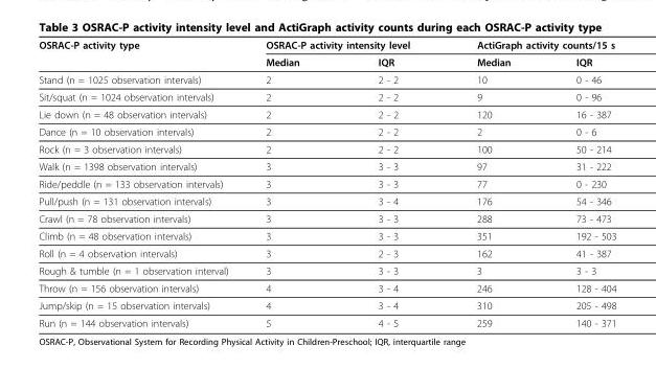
<table><thead><tr><td rowspan="2">OSRAC-P activity type</td><td colspan="2">OSRAC-P activity intensity level</td><td colspan="2">ActiGraph activity counts/15 s</td></tr><tr><td>Median</td><td>IQR</td><td>Median</td><td>IQR</td></tr></thead><tbody><tr><td>Stand (n = 1025 observation intervals)</td><td>2</td><td>2 - 2</td><td>10</td><td>0 - 46</td></tr><tr><td>Sit/squat (n = 1024 observation intervals)</td><td>2</td><td>2 - 2</td><td>9</td><td>0 - 96</td></tr><tr><td>Lie down (n = 48 observation intervals)</td><td>2</td><td>2 - 2</td><td>120</td><td>16 - 387</td></tr><tr><td>Dance (n = 10 observation intervals)</td><td>2</td><td>2 - 2</td><td>2</td><td>0 - 6</td></tr><tr><td>Rock (n = 3 observation intervals)</td><td>2</td><td>2 - 2</td><td>100</td><td>50 - 214</td></tr><tr><td>Walk (n = 1398 observation intervals)</td><td>3</td><td>3 - 3</td><td>97</td><td>31 - 222</td></tr><tr><td>Ride/peddle (n = 133 observation intervals)</td><td>3</td><td>3 - 3</td><td>77</td><td>0 - 230</td></tr><tr><td>Pull/push (n = 131 observation intervals)</td><td>3</td><td>3 - 4</td><td>176</td><td>54 - 346</td></tr><tr><td>Crawl (n = 78 observation intervals)</td><td>3</td><td>3 - 3</td><td>288</td><td>73 - 473</td></tr><tr><td>Climb (n = 48 observation intervals)</td><td>3</td><td>3 - 3</td><td>351</td><td>192 - 503</td></tr><tr><td>Roll (n = 4 observation intervals)</td><td>3</td><td>2 - 3</td><td>162</td><td>41 - 387</td></tr><tr><td>Rough &amp; tumble (n = 1 observation interval)</td><td>3</td><td>3 - 3</td><td>3</td><td>3 - 3</td></tr><tr><td>Throw (n = 156 observation intervals)</td><td>4</td><td>3 - 4</td><td>246</td><td>128 - 404</td></tr><tr><td>Jump/skip (n = 15 observation intervals)</td><td>4</td><td>3 - 4</td><td>310</td><td>205 - 498</td></tr><tr><td>Run (n = 144 observation intervals)</td><td>5</td><td>4 - 5</td><td>259</td><td>140 - 371</td></tr></tbody></table>